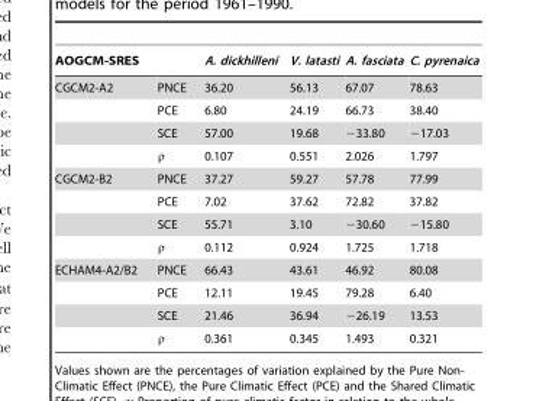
<table><thead><tr><td>AOGCM-SRES</td><td></td><td>A. dickhilleni</td><td>V. latasti</td><td>A. fasciata</td><td>C. pyrenaica</td></tr></thead><tbody><tr><td rowspan="4">CGCM2-A2</td><td>PNCE</td><td>36.20</td><td>56.13</td><td>67.07</td><td>78.63</td></tr><tr><td>PCE</td><td>6.80</td><td>24.19</td><td>66.73</td><td>38.40</td></tr><tr><td>SCE</td><td>57.00</td><td>19.68</td><td>−33.80</td><td>−17.03</td></tr><tr><td>ρ</td><td>0.107</td><td>0.551</td><td>2.026</td><td>1.797</td></tr><tr><td rowspan="4">CGCM2-B2</td><td>PNCE</td><td>37.27</td><td>59.27</td><td>57.78</td><td>77.99</td></tr><tr><td>PCE</td><td>7.02</td><td>37.62</td><td>72.82</td><td>37.82</td></tr><tr><td>SCE</td><td>55.71</td><td>3.10</td><td>−30.60</td><td>−15.80</td></tr><tr><td>ρ</td><td>0.112</td><td>0.924</td><td>1.725</td><td>1.718</td></tr><tr><td rowspan="4">ECHAM4-A2/B2</td><td>PNCE</td><td>66.43</td><td>43.61</td><td>46.92</td><td>80.08</td></tr><tr><td>PCE</td><td>12.11</td><td>19.45</td><td>79.28</td><td>6.40</td></tr><tr><td>SCE</td><td>21.46</td><td>36.94</td><td>−26.19</td><td>13.53</td></tr><tr><td>ρ</td><td>0.361</td><td>0.345</td><td>1.493</td><td>0.321</td></tr></tbody></table>